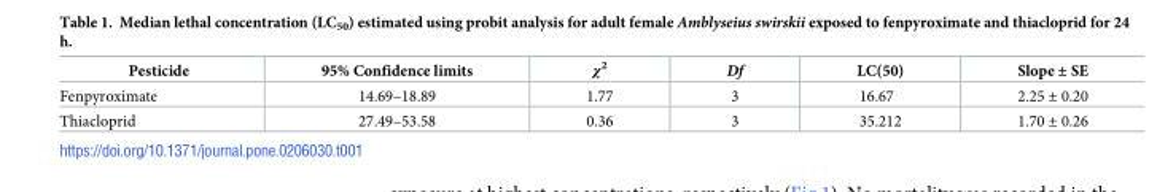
<table><thead><tr><td>Pesticide</td><td>95% Confidence limits</td><td>χ<sup>2</sup></td><td>Df</td><td>LC(50)</td><td>Slope ± SE</td></tr></thead><tbody><tr><td>Fenpyroximate</td><td>14.69–18.89</td><td>1.77</td><td>3</td><td>16.67</td><td>2.25 ± 0.20</td></tr><tr><td>Thiacloprid</td><td>27.49–53.58</td><td>0.36</td><td>3</td><td>35.212</td><td>1.70 ± 0.26</td></tr></tbody></table>